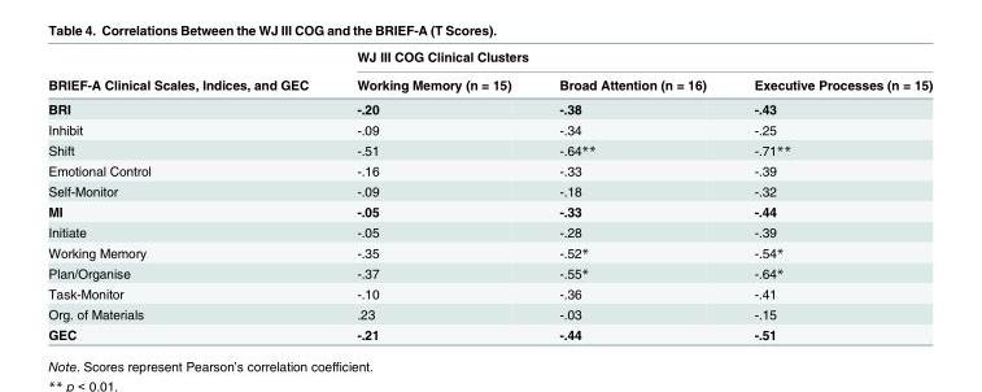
<table><thead><tr><td rowspan="2">BRIEF-A Clinical Scales, Indices, and GEC</td><td colspan="3">WJ III COG Clinical Clusters</td></tr><tr><td>Working Memory (n = 15)</td><td>Broad Attention (n = 16)</td><td>Executive Processes (n = 15)</td></tr></thead><tbody><tr><td>BRI</td><td>-.20</td><td>-.38</td><td>-.43</td></tr><tr><td>Inhibit</td><td>-.09</td><td>-.34</td><td>-.25</td></tr><tr><td>Shift</td><td>-.51</td><td>-.64**</td><td>-.71**</td></tr><tr><td>Emotional Control</td><td>-.16</td><td>-.33</td><td>-.39</td></tr><tr><td>Self-Monitor</td><td>-.09</td><td>-.18</td><td>-.32</td></tr><tr><td>MI</td><td>-.05</td><td>-.33</td><td>-.44</td></tr><tr><td>Initiate</td><td>-.05</td><td>-.28</td><td>-.39</td></tr><tr><td>Working Memory</td><td>-.35</td><td>-.52*</td><td>-.54*</td></tr><tr><td>Plan/Organise</td><td>-.37</td><td>-.55*</td><td>-.64*</td></tr><tr><td>Task-Monitor</td><td>-.10</td><td>-.36</td><td>-.41</td></tr><tr><td>Org. of Materials</td><td>.23</td><td>-.03</td><td>-.15</td></tr><tr><td>GEC</td><td>-.21</td><td>-.44</td><td>-.51</td></tr></tbody></table>